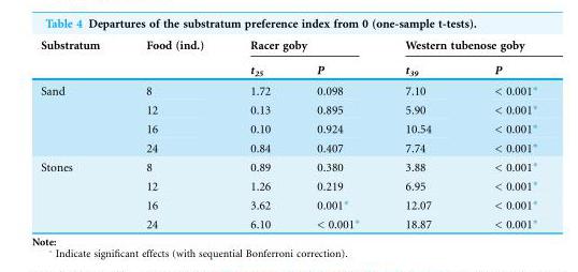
<table><thead><tr><td rowspan="2">Substratum</td><td rowspan="2">Food (ind.)</td><td colspan="2">Racer goby</td><td colspan="2">Western tubenose goby</td></tr><tr><td>t<sub>25</sub></td><td>P</td><td>t<sub>39</sub></td><td>P</td></tr></thead><tbody><tr><td rowspan="4">Sand</td><td>8</td><td>1.72</td><td>0.098</td><td>7.10</td><td>&lt; 0.001*</td></tr><tr><td>12</td><td>0.13</td><td>0.895</td><td>5.90</td><td>&lt; 0.001*</td></tr><tr><td>16</td><td>0.10</td><td>0.924</td><td>10.54</td><td>&lt; 0.001*</td></tr><tr><td>24</td><td>0.84</td><td>0.407</td><td>7.74</td><td>&lt; 0.001*</td></tr><tr><td rowspan="4">Stones</td><td>8</td><td>0.89</td><td>0.380</td><td>3.88</td><td>&lt; 0.001*</td></tr><tr><td>12</td><td>1.26</td><td>0.219</td><td>6.95</td><td>&lt; 0.001*</td></tr><tr><td>16</td><td>3.62</td><td>0.001*</td><td>12.07</td><td>&lt; 0.001*</td></tr><tr><td>24</td><td>6.10</td><td>&lt; 0.001*</td><td>18.87</td><td>&lt; 0.001*</td></tr></tbody></table>